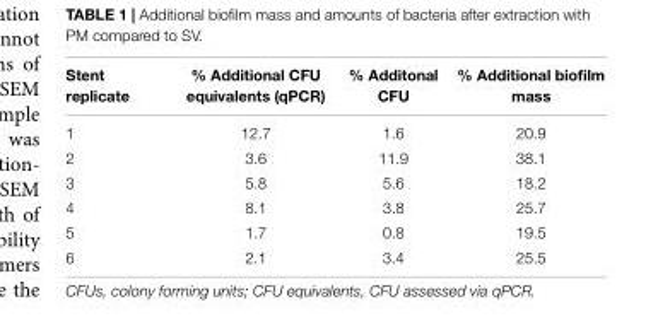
<table><thead><tr><td>Stent replicate</td><td>% Additional CFU equivalents (qPCR)</td><td>% Additonal CFU</td><td>% Additional biofilm mass</td></tr></thead><tbody><tr><td>1</td><td>12.7</td><td>1.6</td><td>20.9</td></tr><tr><td>2</td><td>3.6</td><td>11.9</td><td>38.1</td></tr><tr><td>3</td><td>5.8</td><td>5.6</td><td>18.2</td></tr><tr><td>4</td><td>8.1</td><td>3.8</td><td>25.7</td></tr><tr><td>5</td><td>1.7</td><td>0.8</td><td>19.5</td></tr><tr><td>6</td><td>2.1</td><td>3.4</td><td>25.5</td></tr></tbody></table>